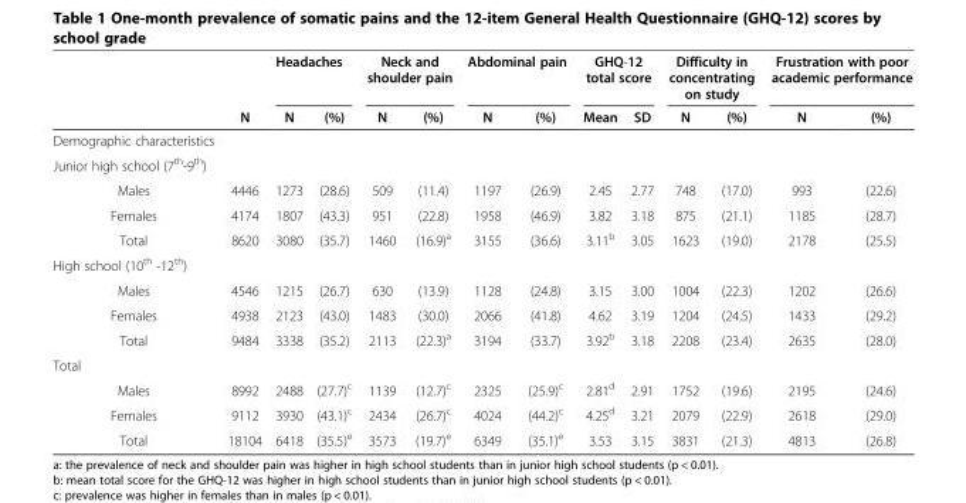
<table><thead><tr><td rowspan="2"></td><td rowspan="2">N</td><td colspan="2">Headaches</td><td colspan="2">Neck and shoulder pain</td><td colspan="2">Abdominal pain</td><td colspan="2">GHQ-12 total score</td><td colspan="2">Difficulty in concentrating on study</td><td colspan="2">Frustration with poor academic performance</td></tr><tr><td>N</td><td>(%)</td><td>N</td><td>(%)</td><td>N</td><td>(%)</td><td>Mean</td><td>SD</td><td>N</td><td>(%)</td><td>N</td><td>(%)</td></tr></thead><tbody><tr><td colspan="14">Demographic characteristics</td></tr><tr><td colspan="14">Junior high school (7<sup>th</sup>-9<sup>th</sup>)</td></tr><tr><td>Males</td><td>4446</td><td>1273</td><td>(28.6)</td><td>509</td><td>(11.4)</td><td>1197</td><td>(26.9)</td><td>2.45</td><td>2.77</td><td>748</td><td>(17.0)</td><td>993</td><td>(22.6)</td></tr><tr><td>Females</td><td>4174</td><td>1807</td><td>(43.3)</td><td>951</td><td>(22.8)</td><td>1958</td><td>(46.9)</td><td>3.82</td><td>3.18</td><td>875</td><td>(21.1)</td><td>1185</td><td>(28.7)</td></tr><tr><td>Total</td><td>8620</td><td>3080</td><td>(35.7)</td><td>1460</td><td>(16.9)<sup>a</sup></td><td>3155</td><td>(36.6)</td><td>3.11<sup>b</sup></td><td>3.05</td><td>1623</td><td>(19.0)</td><td>2178</td><td>(25.5)</td></tr><tr><td colspan="14">High school (10<sup>th</sup> -12<sup>th</sup>)</td></tr><tr><td>Males</td><td>4546</td><td>1215</td><td>(26.7)</td><td>630</td><td>(13.9)</td><td>1128</td><td>(24.8)</td><td>3.15</td><td>3.00</td><td>1004</td><td>(22.3)</td><td>1202</td><td>(26.6)</td></tr><tr><td>Females</td><td>4938</td><td>2123</td><td>(43.0)</td><td>1483</td><td>(30.0)</td><td>2066</td><td>(41.8)</td><td>4.62</td><td>3.19</td><td>1204</td><td>(24.5)</td><td>1433</td><td>(29.2)</td></tr><tr><td>Total</td><td>9484</td><td>3338</td><td>(35.2)</td><td>2113</td><td>(22.3)<sup>a</sup></td><td>3194</td><td>(33.7)</td><td>3.92<sup>b</sup></td><td>3.18</td><td>2208</td><td>(23.4)</td><td>2635</td><td>(28.0)</td></tr><tr><td colspan="14">Total</td></tr><tr><td>Males</td><td>8992</td><td>2488</td><td>(27.7)<sup>c</sup></td><td>1139</td><td>(12.7)<sup>c</sup></td><td>2325</td><td>(25.9)<sup>c</sup></td><td>2.81<sup>d</sup></td><td>2.91</td><td>1752</td><td>(19.6)</td><td>2195</td><td>(24.6)</td></tr><tr><td>Females</td><td>9112</td><td>3930</td><td>(43.1)<sup>c</sup></td><td>2434</td><td>(26.7)<sup>c</sup></td><td>4024</td><td>(44.2)<sup>c</sup></td><td>4.25<sup>d</sup></td><td>3.21</td><td>2079</td><td>(22.9)</td><td>2618</td><td>(29.0)</td></tr><tr><td>Total</td><td>18104</td><td>6418</td><td>(35.5)<sup>e</sup></td><td>3573</td><td>(19.7)<sup>e</sup></td><td>6349</td><td>(35.1)<sup>e</sup></td><td>3.53</td><td>3.15</td><td>3831</td><td>(21.3)</td><td>4813</td><td>(26.8)</td></tr></tbody></table>